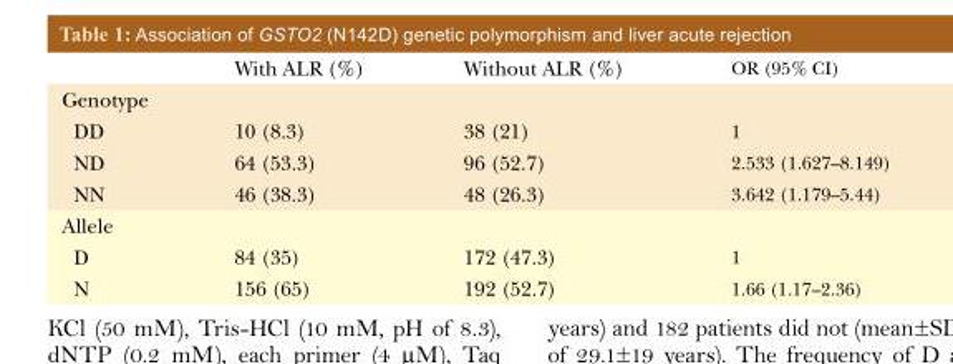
<table><thead><tr><td></td><td>With ALR (%)</td><td>Without ALR (%)</td><td>OR (95% CI)</td></tr></thead><tbody><tr><td colspan="4">Genotype</td></tr><tr><td>DD</td><td>10 (8.3)</td><td>38 (21)</td><td>1</td></tr><tr><td>ND</td><td>64 (53.3)</td><td>96 (52.7)</td><td>2.533 (1.627–8.149)</td></tr><tr><td>NN</td><td>46 (38.3)</td><td>48 (26.3)</td><td>3.642 (1.179–5.44)</td></tr><tr><td colspan="4">Allele</td></tr><tr><td>D</td><td>84 (35)</td><td>172 (47.3)</td><td>1</td></tr><tr><td>N</td><td>156 (65)</td><td>192 (52.7)</td><td>1.66 (1.17–2.36)</td></tr></tbody></table>